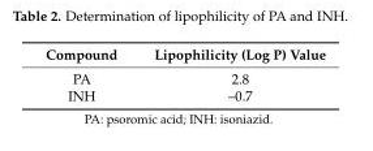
<table><thead><tr><td>Compound</td><td>Lipophilicity (Log P) Value</td></tr></thead><tbody><tr><td>PA</td><td>2.8</td></tr><tr><td>INH</td><td>–0.7</td></tr></tbody></table>